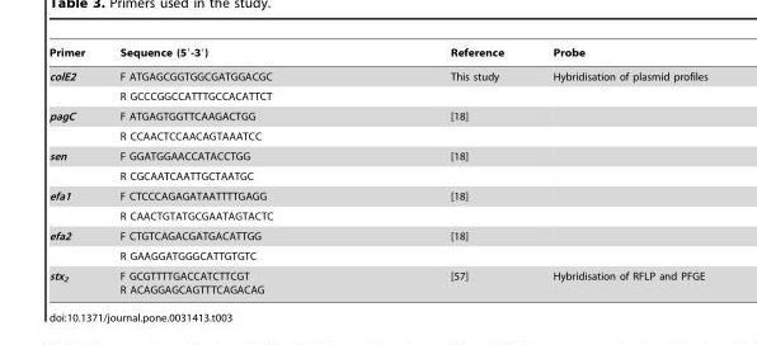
<table><thead><tr><td>Primer</td><td>Sequence (5′-3′)</td><td>Reference</td><td>Probe</td></tr></thead><tbody><tr><td rowspan="2">colE2</td><td>F ATGAGCGGTGGCGATGGACGC</td><td>This study</td><td>Hybridisation of plasmid profiles</td></tr><tr><td>R GCCCGGCCATTTGCCACATTCT</td><td></td><td></td></tr><tr><td rowspan="2">pagC</td><td>F ATGAGTGGTTCAAGACTGG</td><td>[18]</td><td></td></tr><tr><td>R CCAACTCCAACAGTAAATCC</td><td></td><td></td></tr><tr><td rowspan="2">sen</td><td>F GGATGGAACCATACCTGG</td><td>[18]</td><td></td></tr><tr><td>R CGCAATCAATTGCTAATGC</td><td></td><td></td></tr><tr><td rowspan="2">efa1</td><td>F CTCCCAGAGATAATTTTGAGG</td><td>[18]</td><td></td></tr><tr><td>R CAACTGTATGCGAATAGTACTC</td><td></td><td></td></tr><tr><td rowspan="2">efa2</td><td>F CTGTCAGACGATGACATTGG</td><td>[18]</td><td></td></tr><tr><td>R GAAGGATGGGCATTGTGTC</td><td></td><td></td></tr><tr><td>stx<sub>2</sub></td><td>F GCGTTTTGACCATCTTCGT R ACAGGAGCAGTTTCAGACAG</td><td>[57]</td><td>Hybridisation of RFLP and PFGE</td></tr></tbody></table>